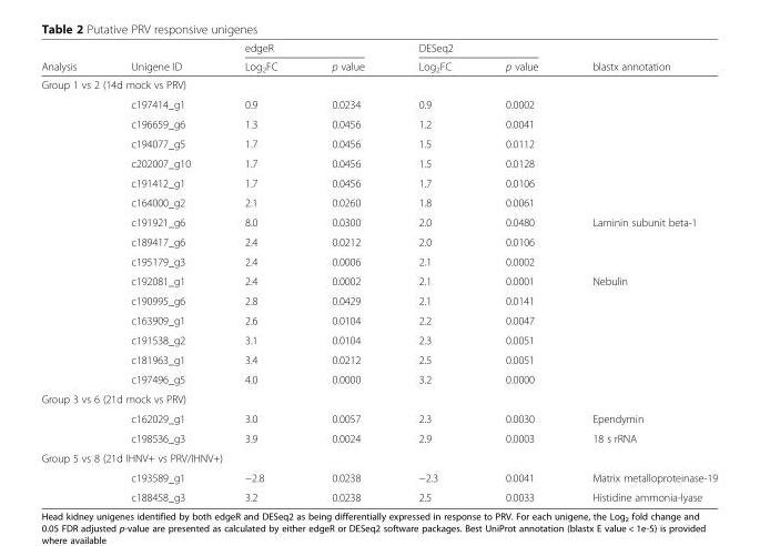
<table><thead><tr><td rowspan="2">Analysis</td><td rowspan="2">Unigene ID</td><td colspan="2">edgeR</td><td colspan="2">DESeq2</td><td rowspan="2">blastx annotation</td></tr><tr><td>Log<sub>2</sub>FC</td><td>p value</td><td>Log<sub>2</sub>FC</td><td>p value</td></tr></thead><tbody><tr><td colspan="7">Group 1 vs 2 (14d mock vs PRV)</td></tr><tr><td rowspan="15"></td><td>c197414_g1</td><td>0.9</td><td>0.0234</td><td>0.9</td><td>0.0002</td><td></td></tr><tr><td>c196659_g6</td><td>1.3</td><td>0.0456</td><td>1.2</td><td>0.0041</td><td></td></tr><tr><td>c194077_g5</td><td>1.7</td><td>0.0456</td><td>1.5</td><td>0.0112</td><td></td></tr><tr><td>c202007_g10</td><td>1.7</td><td>0.0456</td><td>1.5</td><td>0.0128</td><td></td></tr><tr><td>c191412_g1</td><td>1.7</td><td>0.0456</td><td>1.7</td><td>0.0106</td><td></td></tr><tr><td>c164000_g2</td><td>2.1</td><td>0.0260</td><td>1.8</td><td>0.0061</td><td></td></tr><tr><td>c191921_g6</td><td>8.0</td><td>0.0300</td><td>2.0</td><td>0.0480</td><td>Laminin subunit beta-1</td></tr><tr><td>c189417_g6</td><td>2.4</td><td>0.0212</td><td>2.0</td><td>0.0106</td><td></td></tr><tr><td>c195179_g3</td><td>2.4</td><td>0.0006</td><td>2.1</td><td>0.0002</td><td></td></tr><tr><td>c192081_g1</td><td>2.4</td><td>0.0002</td><td>2.1</td><td>0.0001</td><td>Nebulin</td></tr><tr><td>c190995_g6</td><td>2.8</td><td>0.0429</td><td>2.1</td><td>0.0141</td><td></td></tr><tr><td>c163909_g1</td><td>2.6</td><td>0.0104</td><td>2.2</td><td>0.0047</td><td></td></tr><tr><td>c191538_g2</td><td>3.1</td><td>0.0104</td><td>2.3</td><td>0.0051</td><td></td></tr><tr><td>c181963_g1</td><td>3.4</td><td>0.0212</td><td>2.5</td><td>0.0051</td><td></td></tr><tr><td>c197496_g5</td><td>4.0</td><td>0.0000</td><td>3.2</td><td>0.0000</td><td></td></tr><tr><td colspan="7">Group 3 vs 6 (21d mock vs PRV)</td></tr><tr><td rowspan="2"></td><td>c162029_g1</td><td>3.0</td><td>0.0057</td><td>2.3</td><td>0.0030</td><td>Ependymin</td></tr><tr><td>c198536_g3</td><td>3.9</td><td>0.0024</td><td>2.9</td><td>0.0003</td><td>18 s rRNA</td></tr><tr><td colspan="7">Group 5 vs 8 (21d IHNV+ vs PRV/IHNV+)</td></tr><tr><td rowspan="2"></td><td>c193589_g1</td><td>−2.8</td><td>0.0238</td><td>−2.3</td><td>0.0041</td><td>Matrix metalloproteinase-19</td></tr><tr><td>c188458_g3</td><td>3.2</td><td>0.0238</td><td>2.5</td><td>0.0033</td><td>Histidine ammonia-lyase</td></tr></tbody></table>